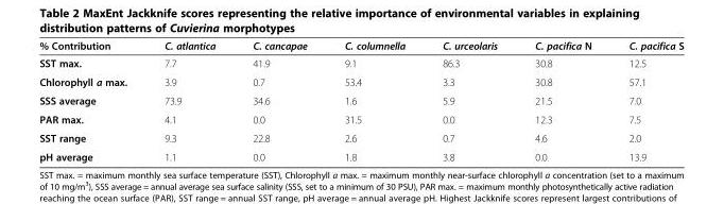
<table><thead><tr><td>% Contribution</td><td>C. atlantica</td><td>C. cancapae</td><td>C. columnella</td><td>C. urceolaris</td><td>C. pacifica N</td><td>C. pacifica S</td></tr></thead><tbody><tr><td>SST max.</td><td>7.7</td><td>41.9</td><td>9.1</td><td>86.3</td><td>30.8</td><td>12.5</td></tr><tr><td>Chlorophyll a max.</td><td>3.9</td><td>0.7</td><td>53.4</td><td>3.3</td><td>30.8</td><td>57.1</td></tr><tr><td>SSS average</td><td>73.9</td><td>34.6</td><td>1.6</td><td>5.9</td><td>21.5</td><td>7.0</td></tr><tr><td>PAR max.</td><td>4.1</td><td>0.0</td><td>31.5</td><td>0.0</td><td>12.3</td><td>7.5</td></tr><tr><td>SST range</td><td>9.3</td><td>22.8</td><td>2.6</td><td>0.7</td><td>4.6</td><td>2.0</td></tr><tr><td>pH average</td><td>1.1</td><td>0.0</td><td>1.8</td><td>3.8</td><td>0.0</td><td>13.9</td></tr></tbody></table>